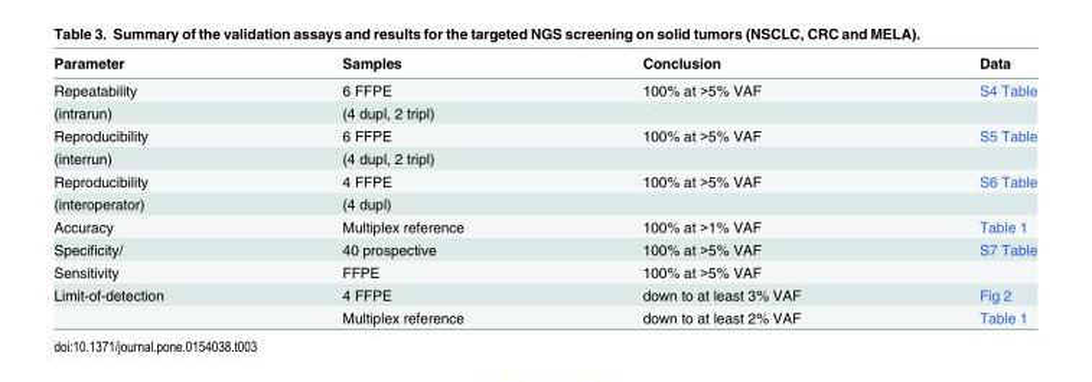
<table><thead><tr><td>Parameter</td><td>Samples</td><td>Conclusion</td><td>Data</td></tr></thead><tbody><tr><td>Repeatability</td><td>6 FFPE</td><td>100% at &gt;5% VAF</td><td>S4 Table</td></tr><tr><td>(intrarun)</td><td>(4 dupl, 2 tripl)</td><td></td><td></td></tr><tr><td>Reproducibility</td><td>6 FFPE</td><td>100% at &gt;5% VAF</td><td>S5 Table</td></tr><tr><td>(interrun)</td><td>(4 dupl, 2 tripl)</td><td></td><td></td></tr><tr><td>Reproducibility</td><td>4 FFPE</td><td>100% at &gt;5% VAF</td><td>S6 Table</td></tr><tr><td>(interoperator)</td><td>(4 dupl)</td><td></td><td></td></tr><tr><td>Accuracy</td><td>Multiplex reference</td><td>100% at &gt;1% VAF</td><td>Table 1</td></tr><tr><td>Specificity/</td><td>40 prospective</td><td>100% at &gt;5% VAF</td><td>S7 Table</td></tr><tr><td>Sensitivity</td><td>FFPE</td><td>100% at &gt;5% VAF</td><td></td></tr><tr><td rowspan="2">Limit-of-detection</td><td>4 FFPE</td><td>down to at least 3% VAF</td><td>Fig 2</td></tr><tr><td>Multiplex reference</td><td>down to at least 2% VAF</td><td>Table 1</td></tr></tbody></table>